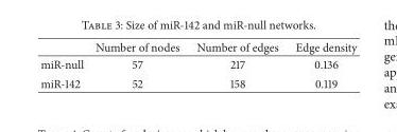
<table><thead><tr><td></td><td>Number of nodes</td><td>Number of edges</td><td>Edge density</td></tr></thead><tbody><tr><td>miR-null</td><td>57</td><td>217</td><td>0.136</td></tr><tr><td>miR-142</td><td>52</td><td>158</td><td>0.119</td></tr></tbody></table>